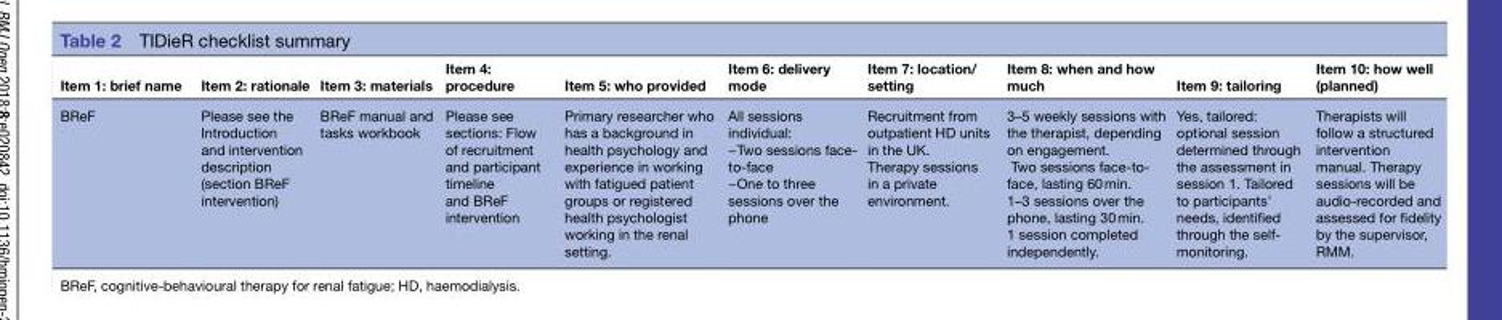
<table><thead><tr><td>Item 1: brief name</td><td>Item 2: rationale</td><td>Item 3: materials</td><td>Item 4: procedure</td><td>Item 5: who provided</td><td>Item 6: delivery mode</td><td>Item 7: location/ setting</td><td>Item 8: when and how much</td><td>Item 9: tailoring</td><td>Item 10: how well (planned)</td></tr></thead><tbody><tr><td>BReF</td><td>Please see the Introduction and intervention description (section BReF intervention)</td><td>BReF manual and tasks workbook</td><td>Please see sections: Flow of recruitment and participant timeline and BReF intervention</td><td>Primary researcher who has a background in health psychology and experience in working with fatigued patient groups or registered health psychologist working in the renal setting.</td><td>All sessions individual: −Two sessions face- to-face −One to three sessions over the phone</td><td>Recruitment from outpatient HD units in the UK. Therapy sessions in a private environment.</td><td>3–5 weekly sessions with the therapist, depending on engagement. Two sessions face-to- face, lasting 60 min. 1–3 sessions over the phone, lasting 30 min. 1 session completed independently.</td><td>Yes, tailored: optional session determined through the assessment in session 1. Tailored to participants’ needs, identified through the self- monitoring.</td><td>Therapists will follow a structured intervention manual. Therapy sessions will be audio-recorded and assessed for fidelity by the supervisor, RMM.</td></tr></tbody></table>